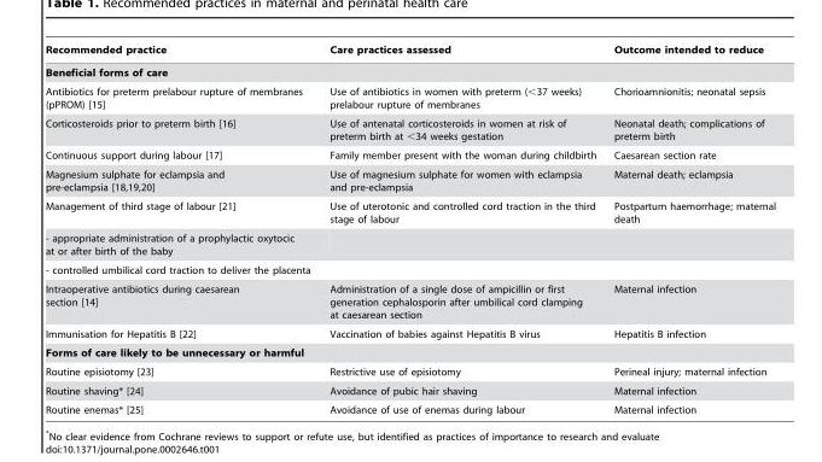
<table><thead><tr><td>Recommended practice</td><td>Care practices assessed</td><td>Outcome intended to reduce</td></tr></thead><tbody><tr><td colspan="3">Beneficial forms of care</td></tr><tr><td>Antibiotics for preterm prelabour rupture of membranes (pPROM) [15]</td><td>Use of antibiotics in women with preterm (&lt;37 weeks) prelabour rupture of membranes</td><td>Chorioamnionitis; neonatal sepsis</td></tr><tr><td>Corticosteroids prior to preterm birth [16]</td><td>Use of antenatal corticosteroids in women at risk of preterm birth at &lt;34 weeks gestation</td><td>Neonatal death; complications of preterm birth</td></tr><tr><td>Continuous support during labour [17]</td><td>Family member present with the woman during childbirth</td><td>Caesarean section rate</td></tr><tr><td>Magnesium sulphate for eclampsia and pre-eclampsia [18,19,20]</td><td>Use of magnesium sulphate for women with eclampsia and pre-eclampsia</td><td>Maternal death; eclampsia</td></tr><tr><td>Management of third stage of labour [21]</td><td>Use of uterotonic and controlled cord traction in the third stage of labour</td><td>Postpartum haemorrhage; maternal death</td></tr><tr><td colspan="3">- appropriate administration of a prophylactic oxytocic at or after birth of the baby</td></tr><tr><td colspan="3">- controlled umbilical cord traction to deliver the placenta</td></tr><tr><td>Intraoperative antibiotics during caesarean section [14]</td><td>Administration of a single dose of ampicillin or first generation cephalosporin after umbilical cord clamping at caesarean section</td><td>Maternal infection</td></tr><tr><td>Immunisation for Hepatitis B [22]</td><td>Vaccination of babies against Hepatitis B virus</td><td>Hepatitis B infection</td></tr><tr><td colspan="3">Forms of care likely to be unnecessary or harmful</td></tr><tr><td>Routine episiotomy [23]</td><td>Restrictive use of episiotomy</td><td>Perineal injury; maternal infection</td></tr><tr><td>Routine shaving* [24]</td><td>Avoidance of pubic hair shaving</td><td>Maternal infection</td></tr><tr><td>Routine enemas* [25]</td><td>Avoidance of use of enemas during labour</td><td>Maternal infection</td></tr></tbody></table>